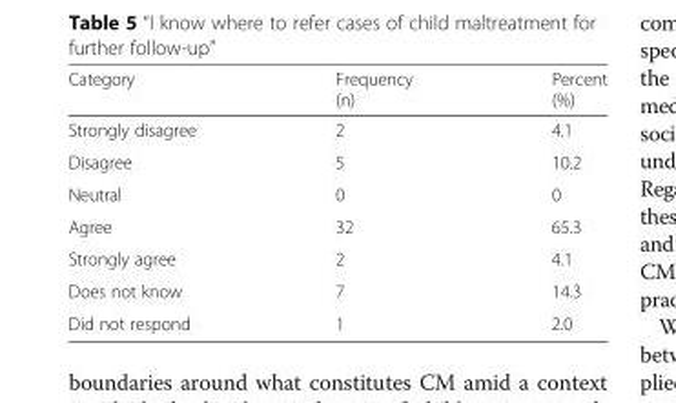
<table><thead><tr><td>Category</td><td>Frequency (n)</td><td>Percent (%)</td></tr></thead><tbody><tr><td>Strongly disagree</td><td>2</td><td>4.1</td></tr><tr><td>Disagree</td><td>5</td><td>10.2</td></tr><tr><td>Neutral</td><td>0</td><td>0</td></tr><tr><td>Agree</td><td>32</td><td>65.3</td></tr><tr><td>Strongly agree</td><td>2</td><td>4.1</td></tr><tr><td>Does not know</td><td>7</td><td>14.3</td></tr><tr><td>Did not respond</td><td>1</td><td>2.0</td></tr></tbody></table>